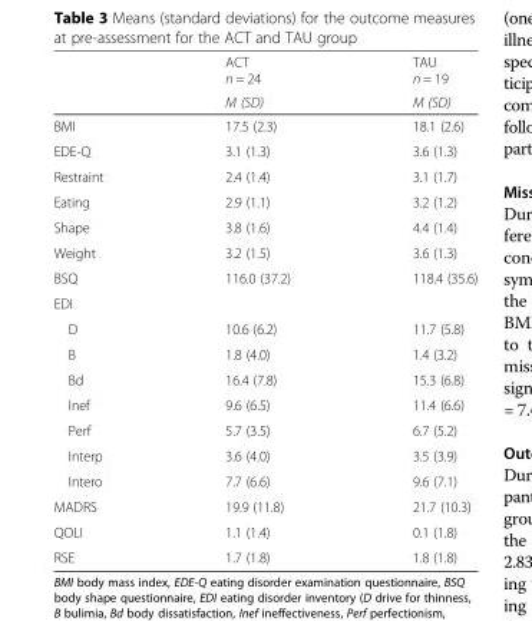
<table><thead><tr><td rowspan="2"></td><td rowspan="2">ACT n = 24 M (SD)</td><td rowspan="2">TAU n = 19 M (SD)</td></tr><tr></tr></thead><tbody><tr><td>BMI</td><td>17.5 (2.3)</td><td>18.1 (2.6)</td></tr><tr><td>EDE-Q</td><td>3.1 (1.3)</td><td>3.6 (1.3)</td></tr><tr><td>Restraint</td><td>2.4 (1.4)</td><td>3.1 (1.7)</td></tr><tr><td>Eating</td><td>2.9 (1.1)</td><td>3.2 (1.2)</td></tr><tr><td>Shape</td><td>3.8 (1.6)</td><td>4.4 (1.4)</td></tr><tr><td>Weight</td><td>3.2 (1.5)</td><td>3.6 (1.3)</td></tr><tr><td>BSQ</td><td>116.0 (37.2)</td><td>118.4 (35.6)</td></tr><tr><td colspan="3">EDI</td></tr><tr><td>D</td><td>10.6 (6.2)</td><td>11.7 (5.8)</td></tr><tr><td>B</td><td>1.8 (4.0)</td><td>1.4 (3.2)</td></tr><tr><td>Bd</td><td>16.4 (7.8)</td><td>15.3 (6.8)</td></tr><tr><td>Inef</td><td>9.6 (6.5)</td><td>11.4 (6.6)</td></tr><tr><td>Perf</td><td>5.7 (3.5)</td><td>6.7 (5.2)</td></tr><tr><td>Interp</td><td>3.6 (4.0)</td><td>3.5 (3.9)</td></tr><tr><td>Intero</td><td>7.7 (6.6)</td><td>9.6 (7.1)</td></tr><tr><td>MADRS</td><td>19.9 (11.8)</td><td>21.7 (10.3)</td></tr><tr><td>QOLI</td><td>1.1 (1.4)</td><td>0.1 (1.8)</td></tr><tr><td>RSE</td><td>1.7 (1.8)</td><td>1.8 (1.8)</td></tr></tbody></table>